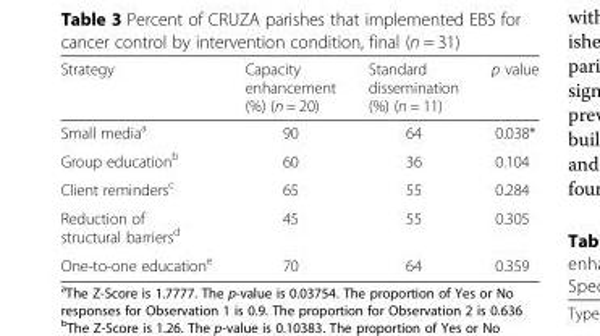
<table><thead><tr><td>Strategy</td><td>Capacity enhancement (%) (n = 20)</td><td>Standard dissemination (%) (n = 11)</td><td>p value</td></tr></thead><tbody><tr><td>Small media<sup>a</sup></td><td>90</td><td>64</td><td>0.038*</td></tr><tr><td>Group education<sup>b</sup></td><td>60</td><td>36</td><td>0.104</td></tr><tr><td>Client reminders<sup>c</sup></td><td>65</td><td>55</td><td>0.284</td></tr><tr><td>Reduction of structural barriers<sup>d</sup></td><td>45</td><td>55</td><td>0.305</td></tr><tr><td>One-to-one education<sup>e</sup></td><td>70</td><td>64</td><td>0.359</td></tr></tbody></table>